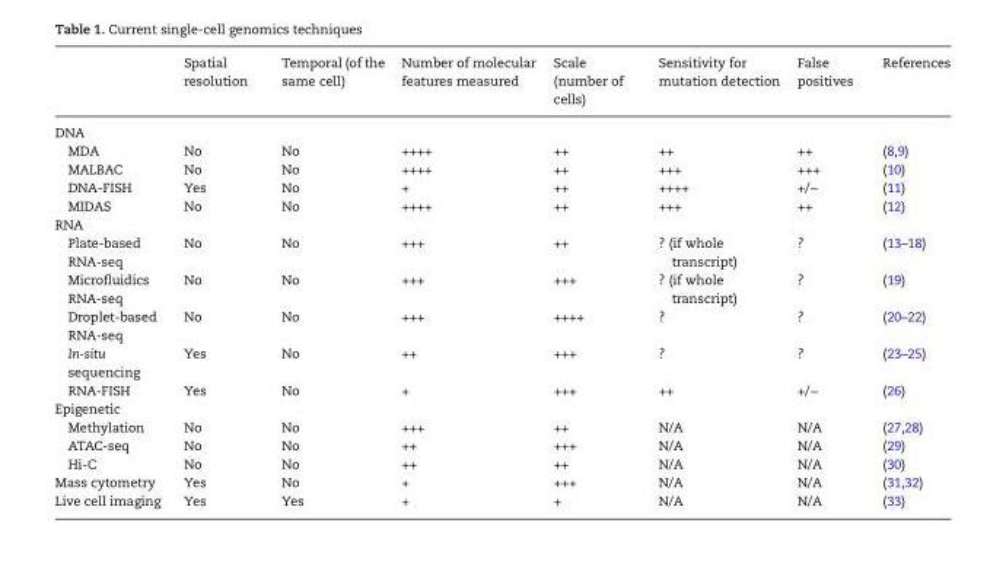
<table><thead><tr><td></td><td>Spatial resolution</td><td>Temporal (of the same cell)</td><td>Number of molecular features measured</td><td>Scale (number of cells)</td><td>Sensitivity for mutation detection</td><td>False positives</td><td>References</td></tr></thead><tbody><tr><td colspan="8">DNA</td></tr><tr><td>MDA</td><td>No</td><td>No</td><td>++++</td><td>++</td><td>++</td><td>++</td><td>(8,9)</td></tr><tr><td>MALBAC</td><td>No</td><td>No</td><td>++++</td><td>++</td><td>+++</td><td>+++</td><td>(10)</td></tr><tr><td>DNA-FISH</td><td>Yes</td><td>No</td><td>+</td><td>++</td><td>++++</td><td>+/−</td><td>(11)</td></tr><tr><td>MIDAS</td><td>No</td><td>No</td><td>++++</td><td>++</td><td>+++</td><td>++</td><td>(12)</td></tr><tr><td colspan="8">RNA</td></tr><tr><td>Plate-based RNA-seq</td><td>No</td><td>No</td><td>+++</td><td>++</td><td>? (if whole transcript)</td><td>?</td><td>(13–18)</td></tr><tr><td>Microfluidics RNA-seq</td><td>No</td><td>No</td><td>+++</td><td>+++</td><td>? (if whole transcript)</td><td>?</td><td>(19)</td></tr><tr><td>Droplet-based RNA-seq</td><td>No</td><td>No</td><td>+++</td><td>++++</td><td>?</td><td>?</td><td>(20–22)</td></tr><tr><td>In-situ sequencing</td><td>Yes</td><td>No</td><td>++</td><td>+++</td><td>?</td><td>?</td><td>(23–25)</td></tr><tr><td>RNA-FISH</td><td>Yes</td><td>No</td><td>+</td><td>+++</td><td>++</td><td>+/−</td><td>(26)</td></tr><tr><td colspan="8">Epigenetic</td></tr><tr><td>Methylation</td><td>No</td><td>No</td><td>+++</td><td>++</td><td>N/A</td><td>N/A</td><td>(27,28)</td></tr><tr><td>ATAC-seq</td><td>No</td><td>No</td><td>++</td><td>+++</td><td>N/A</td><td>N/A</td><td>(29)</td></tr><tr><td>Hi-C</td><td>No</td><td>No</td><td>++</td><td>++</td><td>N/A</td><td>N/A</td><td>(30)</td></tr><tr><td>Mass cytometry</td><td>Yes</td><td>No</td><td>+</td><td>+++</td><td>N/A</td><td>N/A</td><td>(31,32)</td></tr><tr><td>Live cell imaging</td><td>Yes</td><td>Yes</td><td>+</td><td>+</td><td>N/A</td><td>N/A</td><td>(33)</td></tr></tbody></table>